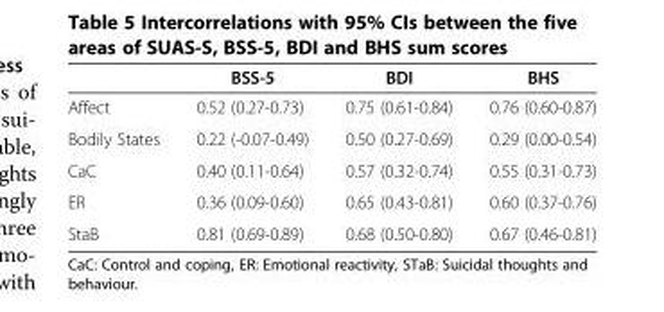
<table><thead><tr><td></td><td>BSS-5</td><td>BDI</td><td>BHS</td></tr></thead><tbody><tr><td>Affect</td><td>0.52 (0.27-0.73)</td><td>0.75 (0.61-0.84)</td><td>0.76 (0.60-0.87)</td></tr><tr><td>Bodily States</td><td>0.22 (-0.07-0.49)</td><td>0.50 (0.27-0.69)</td><td>0.29 (0.00-0.54)</td></tr><tr><td>CaC</td><td>0.40 (0.11-0.64)</td><td>0.57 (0.32-0.74)</td><td>0.55 (0.31-0.73)</td></tr><tr><td>ER</td><td>0.36 (0.09-0.60)</td><td>0.65 (0.43-0.81)</td><td>0.60 (0.37-0.76)</td></tr><tr><td>StaB</td><td>0.81 (0.69-0.89)</td><td>0.68 (0.50-0.80)</td><td>0.67 (0.46-0.81)</td></tr></tbody></table>